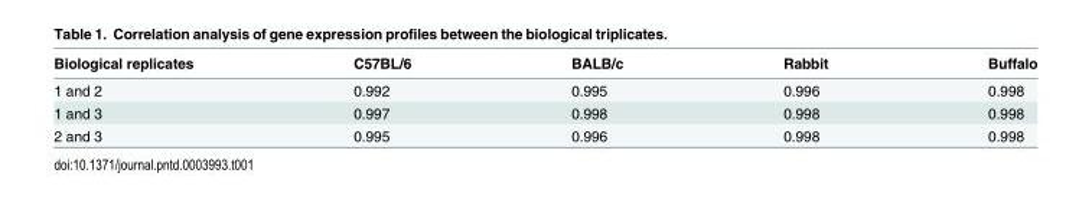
<table><thead><tr><td>Biological replicates</td><td>C57BL/6</td><td>BALB/c</td><td>Rabbit</td><td>Buffalo</td></tr></thead><tbody><tr><td>1 and 2</td><td>0.992</td><td>0.995</td><td>0.996</td><td>0.998</td></tr><tr><td>1 and 3</td><td>0.997</td><td>0.998</td><td>0.998</td><td>0.998</td></tr><tr><td>2 and 3</td><td>0.995</td><td>0.996</td><td>0.998</td><td>0.998</td></tr></tbody></table>